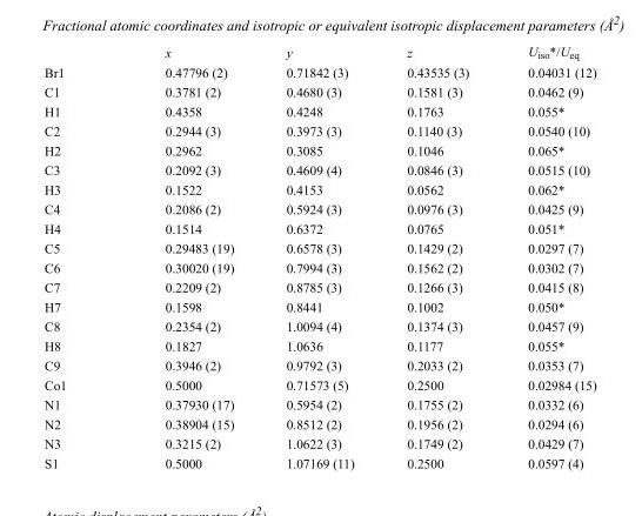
<table><thead><tr><td></td><td>x</td><td>y</td><td>z</td><td>U<sub>iso</sub>*/U<sub>eq</sub></td></tr></thead><tbody><tr><td>Br1</td><td>0.47796 (2)</td><td>0.71842 (3)</td><td>0.43535 (3)</td><td>0.04031 (12)</td></tr><tr><td>C1</td><td>0.3781 (2)</td><td>0.4680 (3)</td><td>0.1581 (3)</td><td>0.0462 (9)</td></tr><tr><td>H1</td><td>0.4358</td><td>0.4248</td><td>0.1763</td><td>0.055*</td></tr><tr><td>C2</td><td>0.2944 (3)</td><td>0.3973 (3)</td><td>0.1140 (3)</td><td>0.0540 (10)</td></tr><tr><td>H2</td><td>0.2962</td><td>0.3085</td><td>0.1046</td><td>0.065*</td></tr><tr><td>C3</td><td>0.2092 (3)</td><td>0.4609 (4)</td><td>0.0846 (3)</td><td>0.0515 (10)</td></tr><tr><td>H3</td><td>0.1522</td><td>0.4153</td><td>0.0562</td><td>0.062*</td></tr><tr><td>C4</td><td>0.2086 (2)</td><td>0.5924 (3)</td><td>0.0976 (3)</td><td>0.0425 (9)</td></tr><tr><td>H4</td><td>0.1514</td><td>0.6372</td><td>0.0765</td><td>0.051*</td></tr><tr><td>C5</td><td>0.29483 (19)</td><td>0.6578 (3)</td><td>0.1429 (2)</td><td>0.0297 (7)</td></tr><tr><td>C6</td><td>0.30020 (19)</td><td>0.7994 (3)</td><td>0.1562 (2)</td><td>0.0302 (7)</td></tr><tr><td>C7</td><td>0.2209 (2)</td><td>0.8785 (3)</td><td>0.1266 (3)</td><td>0.0415 (8)</td></tr><tr><td>H7</td><td>0.1598</td><td>0.8441</td><td>0.1002</td><td>0.050*</td></tr><tr><td>C8</td><td>0.2354 (2)</td><td>1.0094 (4)</td><td>0.1374 (3)</td><td>0.0457 (9)</td></tr><tr><td>H8</td><td>0.1827</td><td>1.0636</td><td>0.1177</td><td>0.055*</td></tr><tr><td>C9</td><td>0.3946 (2)</td><td>0.9792 (3)</td><td>0.2033 (2)</td><td>0.0353 (7)</td></tr><tr><td>Co1</td><td>0.5000</td><td>0.71573 (5)</td><td>0.2500</td><td>0.02984 (15)</td></tr><tr><td>N1</td><td>0.37930 (17)</td><td>0.5954 (2)</td><td>0.1755 (2)</td><td>0.0332 (6)</td></tr><tr><td>N2</td><td>0.38904 (15)</td><td>0.8512 (2)</td><td>0.1956 (2)</td><td>0.0294 (6)</td></tr><tr><td>N3</td><td>0.3215 (2)</td><td>1.0622 (3)</td><td>0.1749 (2)</td><td>0.0429 (7)</td></tr><tr><td>S1</td><td>0.5000</td><td>1.07169 (11)</td><td>0.2500</td><td>0.0597 (4)</td></tr></tbody></table>